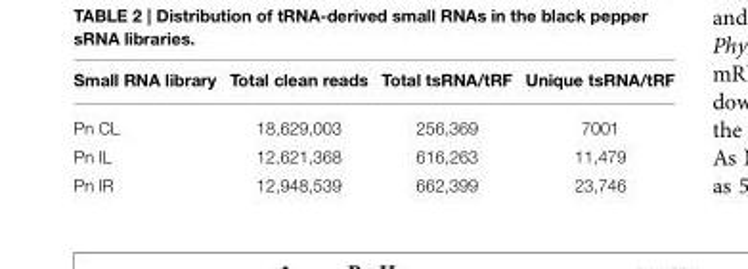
<table><thead><tr><td>Small RNA library</td><td>Total clean reads</td><td>Total tsRNA/tRF</td><td>Unique tsRNA/tRF</td></tr></thead><tbody><tr><td>Pn CL</td><td>18,629,003</td><td>256,369</td><td>7001</td></tr><tr><td>Pn IL</td><td>12,621,368</td><td>616,263</td><td>11,479</td></tr><tr><td>Pn IR</td><td>12,948,539</td><td>662,399</td><td>23,746</td></tr></tbody></table>